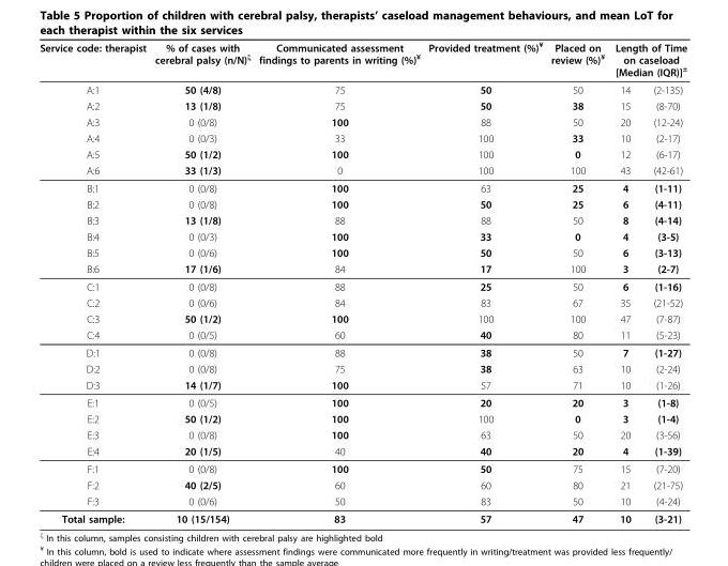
<table><thead><tr><td rowspan="2">Service code: therapist A:1</td><td rowspan="2">% of cases with cerebral palsy (n/N)<sup>ξ</sup> 50 (4/8)</td><td rowspan="2">Communicated assessment findings to parents in writing (%)<sup>¥</sup> 75</td><td rowspan="2">Provided treatment (%)¥ 50</td><td rowspan="2">Placed on review (%)¥ 50</td><td colspan="2">Length of Time on caseload [Median (IQR)]<sup>±</sup></td></tr><tr><td>14</td><td>(2-135)</td></tr></thead><tbody><tr><td>A:2</td><td>13 (1/8)</td><td>75</td><td>50</td><td>38</td><td>15</td><td>(8-70)</td></tr><tr><td>A:3</td><td>0 (0/8)</td><td>100</td><td>88</td><td>50</td><td>20</td><td>(12-24)</td></tr><tr><td>A:4</td><td>0 (0/3)</td><td>33</td><td>100</td><td>33</td><td>10</td><td>(2-17)</td></tr><tr><td>A:5</td><td>50 (1/2)</td><td>100</td><td>100</td><td>0</td><td>12</td><td>(6-17)</td></tr><tr><td>A:6</td><td>33 (1/3)</td><td>0</td><td>100</td><td>100</td><td>43</td><td>(42-61)</td></tr><tr><td>B:1</td><td>0 (0/8)</td><td>100</td><td>63</td><td>25</td><td>4</td><td>(1-11)</td></tr><tr><td>B:2</td><td>0 (0/8)</td><td>100</td><td>50</td><td>25</td><td>6</td><td>(4-11)</td></tr><tr><td>B:3</td><td>13 (1/8)</td><td>88</td><td>88</td><td>50</td><td>8</td><td>(4-14)</td></tr><tr><td>B:4</td><td>0 (0/3)</td><td>100</td><td>33</td><td>0</td><td>4</td><td>(3-5)</td></tr><tr><td>B:5</td><td>0 (0/6)</td><td>100</td><td>50</td><td>50</td><td>6</td><td>(3-13)</td></tr><tr><td>B:6</td><td>17 (1/6)</td><td>84</td><td>17</td><td>100</td><td>3</td><td>(2-7)</td></tr><tr><td>C:1</td><td>0 (0/8)</td><td>88</td><td>25</td><td>50</td><td>6</td><td>(1-16)</td></tr><tr><td>C:2</td><td>0 (0/6)</td><td>84</td><td>83</td><td>67</td><td>35</td><td>(21-52)</td></tr><tr><td>C:3</td><td>50 (1/2)</td><td>100</td><td>100</td><td>100</td><td>47</td><td>(7-87)</td></tr><tr><td>C:4</td><td>0 (0/5)</td><td>60</td><td>40</td><td>80</td><td>11</td><td>(5-23)</td></tr><tr><td>D:1</td><td>0 (0/8)</td><td>88</td><td>38</td><td>50</td><td>7</td><td>(1-27)</td></tr><tr><td>D:2</td><td>0 (0/8)</td><td>75</td><td>38</td><td>63</td><td>10</td><td>(2-24)</td></tr><tr><td>D:3</td><td>14 (1/7)</td><td>100</td><td>57</td><td>71</td><td>10</td><td>(1-26)</td></tr><tr><td>E:1</td><td>0 (0/5)</td><td>100</td><td>20</td><td>20</td><td>3</td><td>(1-8)</td></tr><tr><td>E:2</td><td>50 (1/2)</td><td>100</td><td>100</td><td>0</td><td>3</td><td>(1-4)</td></tr><tr><td>E:3</td><td>0 (0/8)</td><td>100</td><td>63</td><td>50</td><td>20</td><td>(3-56)</td></tr><tr><td>E:4</td><td>20 (1/5)</td><td>40</td><td>40</td><td>20</td><td>4</td><td>(1-39)</td></tr><tr><td>F:1</td><td>0 (0/8)</td><td>100</td><td>50</td><td>75</td><td>15</td><td>(7-20)</td></tr><tr><td>F:2</td><td>40 (2/5)</td><td>60</td><td>60</td><td>80</td><td>21</td><td>(21-75)</td></tr><tr><td>F:3</td><td>0 (0/6)</td><td>50</td><td>83</td><td>50</td><td>10</td><td>(4-24)</td></tr><tr><td>Total sample:</td><td>10 (15/154)</td><td>83</td><td>57</td><td>47</td><td>10</td><td>(3-21)</td></tr></tbody></table>